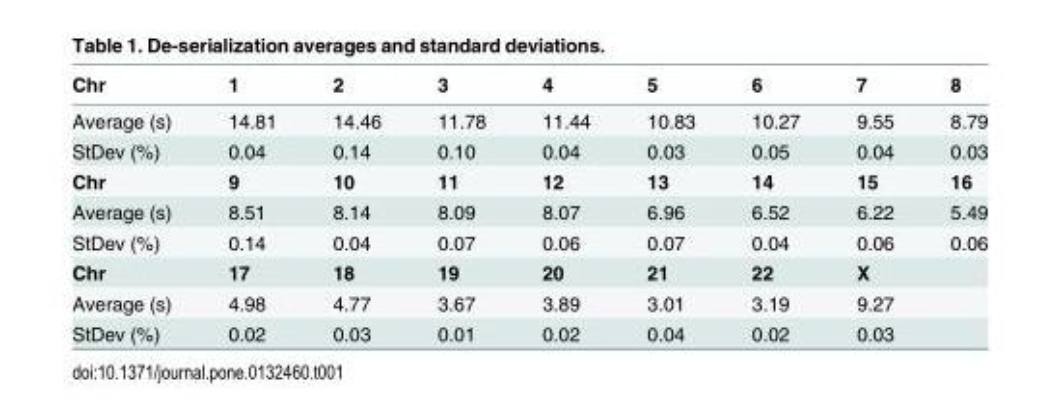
<table><thead><tr><td>Chr</td><td>1</td><td>2</td><td>3</td><td>4</td><td>5</td><td>6</td><td>7</td><td>8</td></tr></thead><tbody><tr><td>Average (s)</td><td>14.81</td><td>14.46</td><td>11.78</td><td>11.44</td><td>10.83</td><td>10.27</td><td>9.55</td><td>8.79</td></tr><tr><td>StDev (%)</td><td>0.04</td><td>0.14</td><td>0.10</td><td>0.04</td><td>0.03</td><td>0.05</td><td>0.04</td><td>0.03</td></tr><tr><td>Chr</td><td>9</td><td>10</td><td>11</td><td>12</td><td>13</td><td>14</td><td>15</td><td>16</td></tr><tr><td>Average (s)</td><td>8.51</td><td>8.14</td><td>8.09</td><td>8.07</td><td>6.96</td><td>6.52</td><td>6.22</td><td>5.49</td></tr><tr><td>StDev (%)</td><td>0.14</td><td>0.04</td><td>0.07</td><td>0.06</td><td>0.07</td><td>0.04</td><td>0.06</td><td>0.06</td></tr><tr><td>Chr</td><td>17</td><td>18</td><td>19</td><td>20</td><td>21</td><td>22</td><td>X</td><td></td></tr><tr><td>Average (s)</td><td>4.98</td><td>4.77</td><td>3.67</td><td>3.89</td><td>3.01</td><td>3.19</td><td>9.27</td><td></td></tr><tr><td>StDev (%)</td><td>0.02</td><td>0.03</td><td>0.01</td><td>0.02</td><td>0.04</td><td>0.02</td><td>0.03</td><td></td></tr></tbody></table>